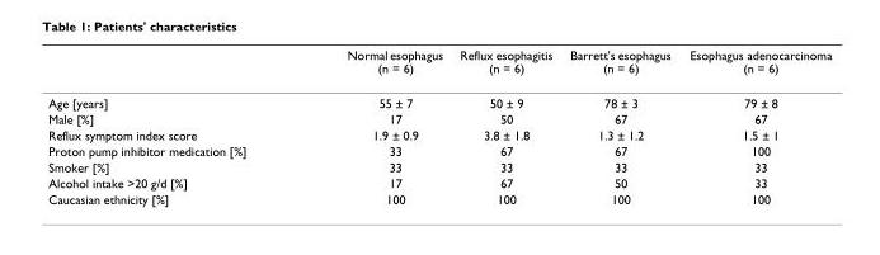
<table><thead><tr><td></td><td>Normal esophagus (n = 6)</td><td>Reflux esophagitis (n = 6)</td><td>Barrett&#x27;s esophagus (n = 6)</td><td>Esophagus adenocarcinoma (n = 6)</td></tr></thead><tbody><tr><td>Age [years]</td><td>55 ± 7</td><td>50 ± 9</td><td>78 ± 3</td><td>79 ± 8</td></tr><tr><td>Male [%]</td><td>17</td><td>50</td><td>67</td><td>67</td></tr><tr><td>Reflux symptom index score</td><td>1.9 ± 0.9</td><td>3.8 ± 1.8</td><td>1.3 ± 1.2</td><td>1.5 ± 1</td></tr><tr><td>Proton pump inhibitor medication [%]</td><td>33</td><td>67</td><td>67</td><td>100</td></tr><tr><td>Smoker [%]</td><td>33</td><td>33</td><td>33</td><td>33</td></tr><tr><td>Alcohol intake &gt;20 g/d [%]</td><td>17</td><td>67</td><td>50</td><td>33</td></tr><tr><td>Caucasian ethnicity [%]</td><td>100</td><td>100</td><td>100</td><td>100</td></tr></tbody></table>